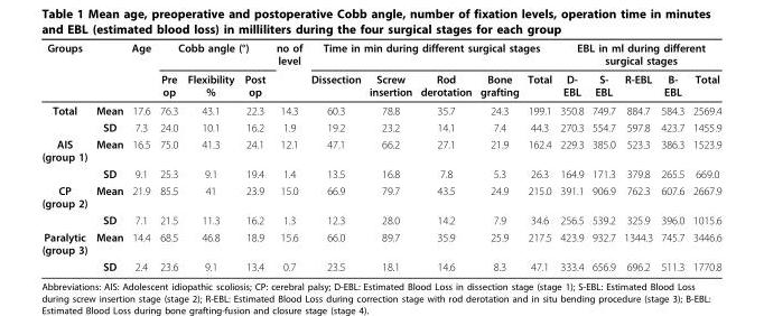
<table><thead><tr><td rowspan="2">Groups</td><td rowspan="2"></td><td rowspan="2">Age</td><td colspan="3">Cobb angle (°)</td><td rowspan="2">no of level</td><td colspan="5">Time in min during different surgical stages</td><td colspan="5">EBL in ml during different surgical stages</td></tr><tr><td>Pre op</td><td>Flexibility %</td><td>Post op</td><td>Dissection</td><td>Screw insertion</td><td>Rod derotation</td><td>Bone grafting</td><td>Total</td><td>D- EBL</td><td>S- EBL</td><td>R-EBL</td><td>B- EBL</td><td>Total</td></tr></thead><tbody><tr><td rowspan="2">Total</td><td>Mean</td><td>17.6</td><td>76.3</td><td>43.1</td><td>22.3</td><td>14.3</td><td>60.3</td><td>78.8</td><td>35.7</td><td>24.3</td><td>199.1</td><td>350.8</td><td>749.7</td><td>884.7</td><td>584.3</td><td>2569.4</td></tr><tr><td>SD</td><td>7.3</td><td>24.0</td><td>10.1</td><td>16.2</td><td>1.9</td><td>19.2</td><td>23.2</td><td>14.1</td><td>7.4</td><td>44.3</td><td>270.3</td><td>554.7</td><td>597.8</td><td>423.7</td><td>1455.9</td></tr><tr><td rowspan="2">AIS (group 1)</td><td>Mean</td><td>16.5</td><td>75.0</td><td>41.3</td><td>24.1</td><td>12.1</td><td>47.1</td><td>66.2</td><td>27.1</td><td>21.9</td><td>162.4</td><td>229.3</td><td>385.0</td><td>523.3</td><td>386.3</td><td>1523.9</td></tr><tr><td>SD</td><td>9.1</td><td>25.3</td><td>9.1</td><td>19.4</td><td>1.4</td><td>13.5</td><td>16.8</td><td>7.8</td><td>5.3</td><td>26.3</td><td>164.9</td><td>171.3</td><td>379.8</td><td>265.5</td><td>669.0</td></tr><tr><td rowspan="2">CP (group 2)</td><td>Mean</td><td>21.9</td><td>85.5</td><td>41</td><td>23.9</td><td>15.0</td><td>66.9</td><td>79.7</td><td>43.5</td><td>24.9</td><td>215.0</td><td>391.1</td><td>906.9</td><td>762.3</td><td>607.6</td><td>2667.9</td></tr><tr><td>SD</td><td>7.1</td><td>21.5</td><td>11.3</td><td>16.2</td><td>1.3</td><td>12.3</td><td>28.0</td><td>14.2</td><td>7.9</td><td>34.6</td><td>256.5</td><td>539.2</td><td>325.9</td><td>396.0</td><td>1015.6</td></tr><tr><td rowspan="2">Paralytic (group 3)</td><td>Mean</td><td>14.4</td><td>68.5</td><td>46.8</td><td>18.9</td><td>15.6</td><td>66.0</td><td>89.7</td><td>35.9</td><td>25.9</td><td>217.5</td><td>423.9</td><td>932.7</td><td>1344.3</td><td>745.7</td><td>3446.6</td></tr><tr><td>SD</td><td>2.4</td><td>23.6</td><td>9.1</td><td>13.4</td><td>0.7</td><td>23.5</td><td>18.1</td><td>14.6</td><td>8.3</td><td>47.1</td><td>333.4</td><td>656.9</td><td>696.2</td><td>511.3</td><td>1770.8</td></tr></tbody></table>